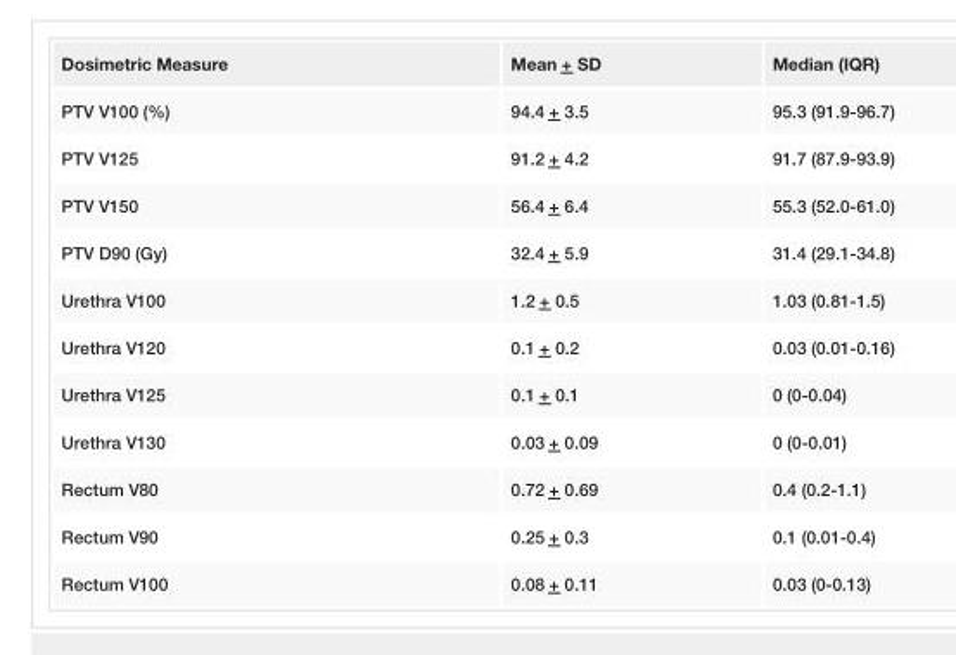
<table><tbody><tr><td>Dosimetric Measure</td><td>Mean + SD</td><td>Median (IQR)</td></tr><tr><td>PTV V100 (%)</td><td>94.4 + 3.5</td><td>95.3 (91.9-96.7)</td></tr><tr><td>PTV V125</td><td>91.2 + 4.2</td><td>91.7 (87.9-93.9)</td></tr><tr><td>PTV V150</td><td>56.4 + 6.4</td><td>55.3 (52.0-61.0)</td></tr><tr><td>PTV D90 (Gy)</td><td>32.4 + 5.9</td><td>31.4 (29.1-34.8)</td></tr><tr><td>Urethra V100</td><td>1.2 + 0.5</td><td>1.03 (0.81-1.5)</td></tr><tr><td>Urethra V120</td><td>0.1 + 0.2</td><td>0.03 (0.01-0.16)</td></tr><tr><td>Urethra V125</td><td>0.1 + 0.1</td><td>0 (0-0.04)</td></tr><tr><td>Urethra V130</td><td>0.03 + 0.09</td><td>0 (0-0.01)</td></tr><tr><td>Rectum V80</td><td>0.72 + 0.69</td><td>0.4 (0.2-1.1)</td></tr><tr><td>Rectum V90</td><td>0.25 + 0.3</td><td>0.1 (0.01-0.4)</td></tr><tr><td>Rectum V100</td><td>0.08 + 0.11</td><td>0.03 (0-0.13)</td></tr></tbody></table>